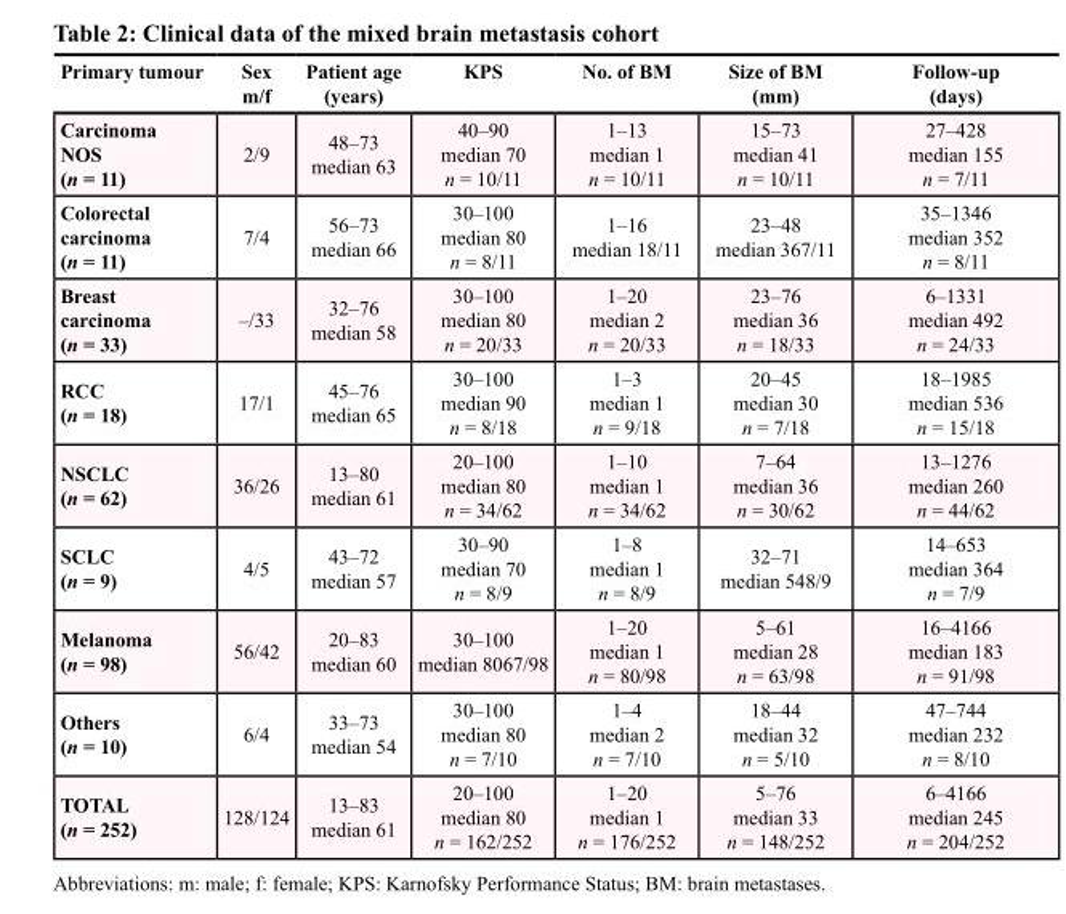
<table><thead><tr><td>Primary tumour</td><td>Sex m/f</td><td>Patient age (years)</td><td>KPS</td><td>No. of BM</td><td>Size of BM (mm)</td><td>Follow-up (days)</td></tr></thead><tbody><tr><td>Carcinoma NOS (n = 11)</td><td>2/9</td><td>48–73 median 63</td><td>40–90 median 70 n = 10/11</td><td>1–13 median 1 n = 10/11</td><td>15–73 median 41 n = 10/11</td><td>27–428 median 155 n = 7/11</td></tr><tr><td>Colorectal carcinoma (n = 11)</td><td>7/4</td><td>56–73 median 66</td><td>30–100 median 80 n = 8/11</td><td>1–16 median 18/11</td><td>23–48 median 367/11</td><td>35–1346 median 352 n = 8/11</td></tr><tr><td>Breast carcinoma (n = 33)</td><td>–/33</td><td>32–76 median 58</td><td>30–100 median 80 n = 20/33</td><td>1–20 median 2 n = 20/33</td><td>23–76 median 36 n = 18/33</td><td>6–1331 median 492 n = 24/33</td></tr><tr><td>RCC (n = 18)</td><td>17/1</td><td>45–76 median 65</td><td>30–100 median 90 n = 8/18</td><td>1–3 median 1 n = 9/18</td><td>20–45 median 30 n = 7/18</td><td>18–1985 median 536 n = 15/18</td></tr><tr><td>NSCLC (n = 62)</td><td>36/26</td><td>13–80 median 61</td><td>20–100 median 80 n = 34/62</td><td>1–10 median 1 n = 34/62</td><td>7–64 median 36 n = 30/62</td><td>13–1276 median 260 n = 44/62</td></tr><tr><td>SCLC (n = 9)</td><td>4/5</td><td>43–72 median 57</td><td>30–90 median 70 n = 8/9</td><td>1–8 median 1 n = 8/9</td><td>32–71 median 548/9</td><td>14–653 median 364 n = 7/9</td></tr><tr><td>Melanoma (n = 98)</td><td>56/42</td><td>20–83 median 60</td><td>30–100 median 8067/98</td><td>1–20 median 1 n = 80/98</td><td>5–61 median 28 n = 63/98</td><td>16–4166 median 183 n = 91/98</td></tr><tr><td>Others (n = 10)</td><td>6/4</td><td>33–73 median 54</td><td>30–100 median 80 n = 7/10</td><td>1–4 median 2 n = 7/10</td><td>18–44 median 32 n = 5/10</td><td>47–744 median 232 n = 8/10</td></tr><tr><td>TOTAL (n = 252)</td><td>128/124</td><td>13–83 median 61</td><td>20–100 median 80 n = 162/252</td><td>1–20 median 1 n = 176/252</td><td>5–76 median 33 n = 148/252</td><td>6–4166 median 245 n = 204/252</td></tr></tbody></table>